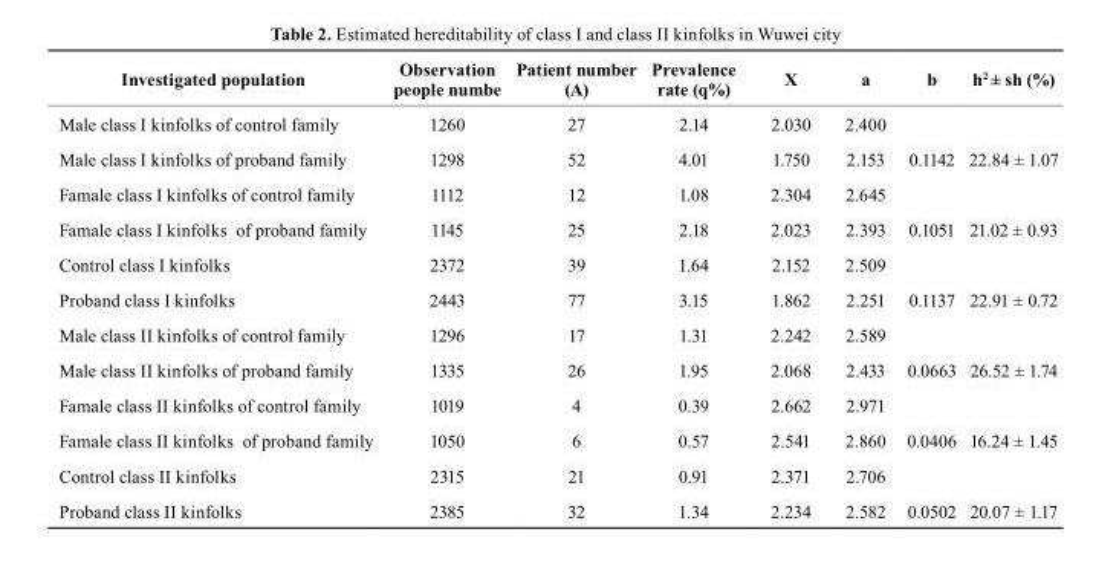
<table><thead><tr><td>Investigated population</td><td>Observation people numbe</td><td>Patient number (A)</td><td>Prevalence rate (q%)</td><td>X</td><td>a</td><td>b</td><td>h<sup>2</sup> ± sh (%)</td></tr></thead><tbody><tr><td>Male class I kinfolks of control family</td><td>1260</td><td>27</td><td>2.14</td><td>2.030</td><td>2.400</td><td></td><td></td></tr><tr><td>Male class I kinfolks of proband family</td><td>1298</td><td>52</td><td>4.01</td><td>1.750</td><td>2.153</td><td>0.1142</td><td>22.84 ± 1.07</td></tr><tr><td>Famale class I kinfolks of control family</td><td>1112</td><td>12</td><td>1.08</td><td>2.304</td><td>2.645</td><td></td><td></td></tr><tr><td>Famale class I kinfolks of proband family</td><td>1145</td><td>25</td><td>2.18</td><td>2.023</td><td>2.393</td><td>0.1051</td><td>21.02 ± 0.93</td></tr><tr><td>Control class I kinfolks</td><td>2372</td><td>39</td><td>1.64</td><td>2.152</td><td>2.509</td><td></td><td></td></tr><tr><td>Proband class I kinfolks</td><td>2443</td><td>77</td><td>3.15</td><td>1.862</td><td>2.251</td><td>0.1137</td><td>22.91 ± 0.72</td></tr><tr><td>Male class II kinfolks of control family</td><td>1296</td><td>17</td><td>1.31</td><td>2.242</td><td>2.589</td><td></td><td></td></tr><tr><td>Male class II kinfolks of proband family</td><td>1335</td><td>26</td><td>1.95</td><td>2.068</td><td>2.433</td><td>0.0663</td><td>26.52 ± 1.74</td></tr><tr><td>Famale class II kinfolks of control family</td><td>1019</td><td>4</td><td>0.39</td><td>2.662</td><td>2.971</td><td></td><td></td></tr><tr><td>Famale class II kinfolks of proband family</td><td>1050</td><td>6</td><td>0.57</td><td>2.541</td><td>2.860</td><td>0.0406</td><td>16.24 ± 1.45</td></tr><tr><td>Control class II kinfolks</td><td>2315</td><td>21</td><td>0.91</td><td>2.371</td><td>2.706</td><td></td><td></td></tr><tr><td>Proband class II kinfolks</td><td>2385</td><td>32</td><td>1.34</td><td>2.234</td><td>2.582</td><td>0.0502</td><td>20.07 ± 1.17</td></tr></tbody></table>